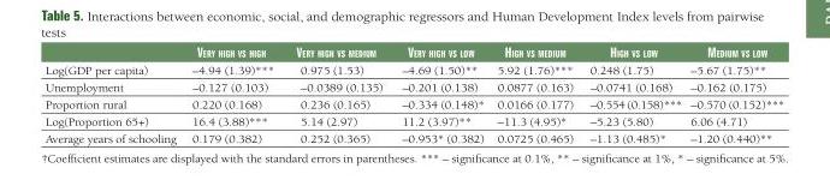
<table><thead><tr><td></td><td>Very high Vs high</td><td>Very high Vs MediuM</td><td>Very high Vs Low</td><td>high Vs MediuM</td><td>high Vs Low</td><td>MediuM Vs Low</td></tr></thead><tbody><tr><td>Log(GDP per capita)</td><td>–4.94 (1.39)***</td><td>0.975 (1.53)</td><td>–4.69 (1.50)**</td><td>5.92 (1.76)***</td><td>0.248 (1.75)</td><td>–5.67 (1.75)**</td></tr><tr><td>Unemployment</td><td>–0.127 (0.103)</td><td>–0.0389 (0.135)</td><td>–0.201 (0.138)</td><td>0.0877 (0.163)</td><td>–0.0741 (0.168)</td><td>–0.162 (0.175)</td></tr><tr><td>Proportion rural</td><td>0.220 (0.168)</td><td>0.236 (0.165)</td><td>–0.334 (0.148)*</td><td>0.0166 (0.177)</td><td>–0.554 (0.158)***</td><td>–0.570 (0.152)***</td></tr><tr><td>Log(Proportion 65+)</td><td>16.4 (3.88)***</td><td>5.14 (2.97)</td><td>11.2 (3.97)**</td><td>–11.3 (4.95)*</td><td>–5.23 (5.80)</td><td>6.06 (4.71)</td></tr><tr><td>Average years of schooling</td><td>0.179 (0.382)</td><td>0.252 (0.365)</td><td>–0.953* (0.382)</td><td>0.0725 (0.465)</td><td>–1.13 (0.485)*</td><td>–1.20 (0.440)**</td></tr></tbody></table>